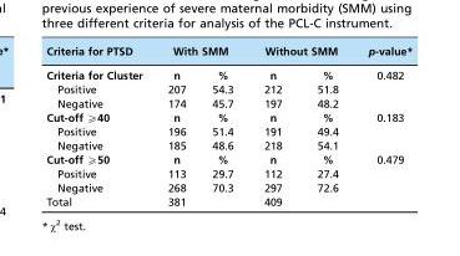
<table><thead><tr><td rowspan="2">Criteria for PTSD Criteria for Cluster</td><td colspan="2">With SMM</td><td colspan="2">Without SMM</td><td rowspan="2">p-value* 0.482</td></tr><tr><td>n</td><td>%</td><td>n</td><td>%</td></tr></thead><tbody><tr><td>Positive</td><td>207</td><td>54.3</td><td>212</td><td>51.8</td><td></td></tr><tr><td>Negative</td><td>174</td><td>45.7</td><td>197</td><td>48.2</td><td></td></tr><tr><td>Cut-off ≥40</td><td>n</td><td>%</td><td>n</td><td>%</td><td>0.183</td></tr><tr><td>Positive</td><td>196</td><td>51.4</td><td>191</td><td>49.4</td><td></td></tr><tr><td>Negative</td><td>185</td><td>48.6</td><td>218</td><td>54.1</td><td></td></tr><tr><td>Cut-off ≥50</td><td>n</td><td>%</td><td>n</td><td>%</td><td>0.479</td></tr><tr><td>Positive</td><td>113</td><td>29.7</td><td>112</td><td>27.4</td><td></td></tr><tr><td>Negative</td><td>268</td><td>70.3</td><td>297</td><td>72.6</td><td></td></tr><tr><td>Total</td><td>381</td><td></td><td>409</td><td></td><td></td></tr></tbody></table>